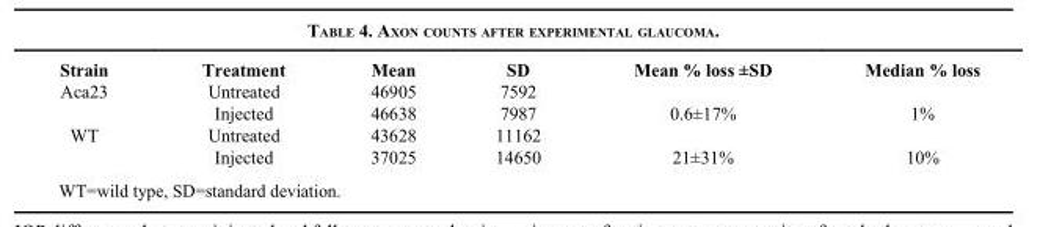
<table><thead><tr><td>Strain</td><td>Treatment</td><td>Mean</td><td>SD</td><td>Mean % loss ±SD</td><td>Median % loss</td></tr></thead><tbody><tr><td rowspan="2">Aca23</td><td>Untreated</td><td>46905</td><td>7592</td><td></td><td></td></tr><tr><td>Injected</td><td>46638</td><td>7987</td><td>0.6±17%</td><td>1%</td></tr><tr><td rowspan="2">WT</td><td>Untreated</td><td>43628</td><td>11162</td><td></td><td></td></tr><tr><td>Injected</td><td>37025</td><td>14650</td><td>21±31%</td><td>10%</td></tr></tbody></table>